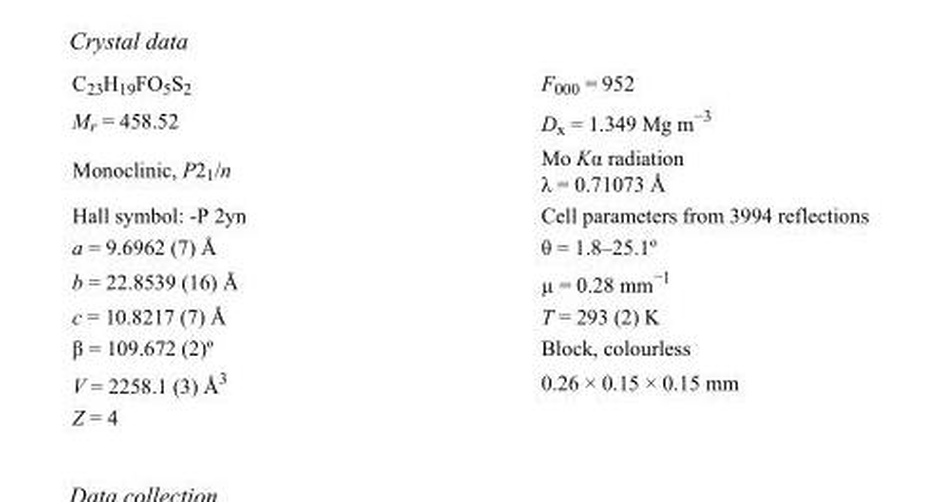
<table><tbody><tr><td>C<sub>23</sub>H<sub>19</sub>FO<sub>5</sub>S<sub>2</sub></td><td>F000 = 952</td></tr><tr><td>M<sub>r</sub> = 458.52</td><td>D<sub>x</sub> = 1.349 Mg m<sup>−3</sup></td></tr><tr><td>Monoclinic, P2<sub>1</sub>/n</td><td>Mo Kα radiation λ = 0.71073 Å</td></tr><tr><td>Hall symbol: -P 2yn</td><td>Cell parameters from 3994 reflections</td></tr><tr><td>a = 9.6962 (7) Å</td><td>θ = 1.8–25.1º</td></tr><tr><td>b = 22.8539 (16) Å</td><td>µ = 0.28 mm<sup>−1</sup></td></tr><tr><td>c = 10.8217 (7) Å</td><td>T = 293 (2) K</td></tr><tr><td>β = 109.672 (2)º</td><td>Block, colourless</td></tr><tr><td>V = 2258.1 (3) Å<sup>3</sup></td><td>0.26 × 0.15 × 0.15 mm</td></tr><tr><td>Z = 4</td><td></td></tr></tbody></table>